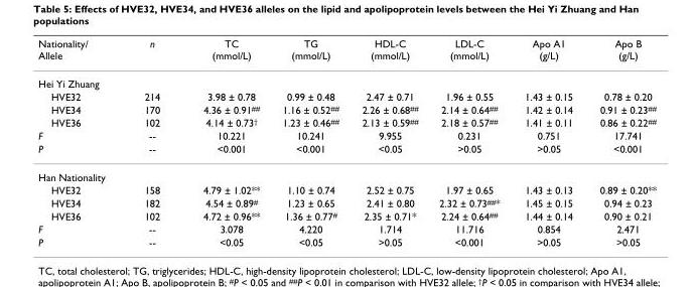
<table><thead><tr><td>Nationality/ Allele</td><td>n</td><td>TC (mmol/L)</td><td>TG (mmol/L)</td><td>HDL-C (mmol/L)</td><td>LDL-C (mmol/L)</td><td>Apo A1 (g/L)</td><td>Apo B (g/L)</td></tr></thead><tbody><tr><td colspan="8">Hei Yi Zhuang</td></tr><tr><td>HVE32</td><td>214</td><td>3.98 ± 0.78</td><td>0.99 ± 0.48</td><td>2.47 ± 0.71</td><td>1.96 ± 0.55</td><td>1.43 ± 0.15</td><td>0.78 ± 0.20</td></tr><tr><td>HVE34</td><td>170</td><td>4.36 ± 0.91<sup>##</sup></td><td>1.16 ± 0.52<sup>##</sup></td><td>2.26 ± 0.68<sup>##</sup></td><td>2.14 ± 0.64<sup>##</sup></td><td>1.42 ± 0.14</td><td>0.91 ± 0.23<sup>##</sup></td></tr><tr><td>HVE36</td><td>102</td><td>4.14 ± 0.73<sup>†</sup></td><td>1.23 ± 0.46<sup>##</sup></td><td>2.13 ± 0.59<sup>##</sup></td><td>2.18 ± 0.57<sup>##</sup></td><td>1.41 ± 0.11</td><td>0.86 ± 0.22<sup>##</sup></td></tr><tr><td>F</td><td>--</td><td>10.221</td><td>10.241</td><td>9.955</td><td>0.231</td><td>0.751</td><td>17.741</td></tr><tr><td>P</td><td>--</td><td>&lt;0.001</td><td>&lt;0.001</td><td>&lt;0.05</td><td>&gt;0.05</td><td>&gt;0.05</td><td>&lt;0.001</td></tr><tr><td colspan="8">Han Nationality</td></tr><tr><td>HVE32</td><td>158</td><td>4.79 ± 1.02**</td><td>1.10 ± 0.74</td><td>2.52 ± 0.75</td><td>1.97 ± 0.65</td><td>1.43 ± 0.13</td><td>0.89 ± 0.20**</td></tr><tr><td>HVE34</td><td>182</td><td>4.54 ± 0.89<sup>#</sup></td><td>1.23 ± 0.65</td><td>2.41 ± 0.80</td><td>2.32 ± 0.73<sup>##</sup>*</td><td>1.45 ± 0.15</td><td>0.94 ± 0.23</td></tr><tr><td>HVE36</td><td>102</td><td>4.72 ± 0.96**</td><td>1.36 ± 0.77<sup>#</sup></td><td>2.35 ± 0.71*</td><td>2.24 ± 0.64<sup>##</sup></td><td>1.44 ± 0.14</td><td>0.90 ± 0.21</td></tr><tr><td>F</td><td>--</td><td>3.078</td><td>4.220</td><td>1.714</td><td>11.716</td><td>0.854</td><td>2.471</td></tr><tr><td>P</td><td>--</td><td>&lt;0.05</td><td>&lt;0.05</td><td>&gt;0.05</td><td>&lt;0.001</td><td>&gt;0.05</td><td>&gt;0.05</td></tr></tbody></table>